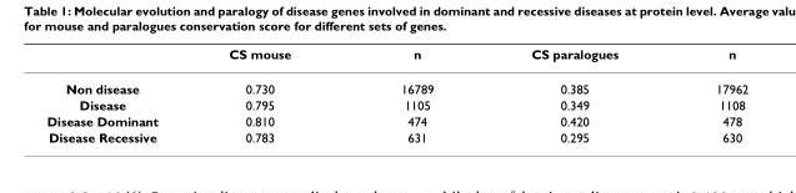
<table><thead><tr><td></td><td>CS mouse</td><td>n</td><td>CS paralogues</td><td>n</td></tr></thead><tbody><tr><td>Non disease</td><td>0.730</td><td>16789</td><td>0.385</td><td>17962</td></tr><tr><td>Disease</td><td>0.795</td><td>1105</td><td>0.349</td><td>1108</td></tr><tr><td>Disease Dominant</td><td>0.810</td><td>474</td><td>0.420</td><td>478</td></tr><tr><td>Disease Recessive</td><td>0.783</td><td>631</td><td>0.295</td><td>630</td></tr></tbody></table>